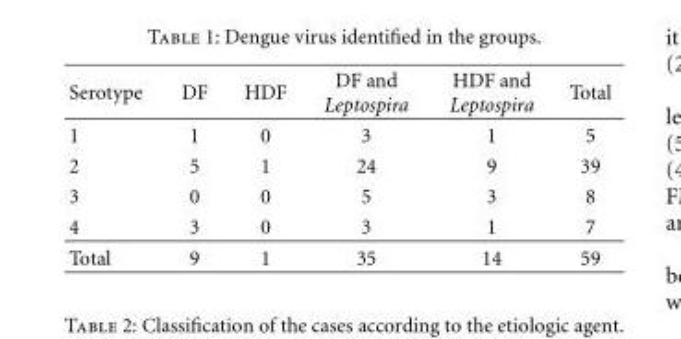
<table><thead><tr><td>Serotype</td><td>DF</td><td>HDF</td><td>DF and Leptospira</td><td>HDF and Leptospira</td><td>Total</td></tr></thead><tbody><tr><td>1</td><td>1</td><td>0</td><td>3</td><td>1</td><td>5</td></tr><tr><td>2</td><td>5</td><td>1</td><td>24</td><td>9</td><td>39</td></tr><tr><td>3</td><td>0</td><td>0</td><td>5</td><td>3</td><td>8</td></tr><tr><td>4</td><td>3</td><td>0</td><td>3</td><td>1</td><td>7</td></tr><tr><td>Total</td><td>9</td><td>1</td><td>35</td><td>14</td><td>59</td></tr></tbody></table>